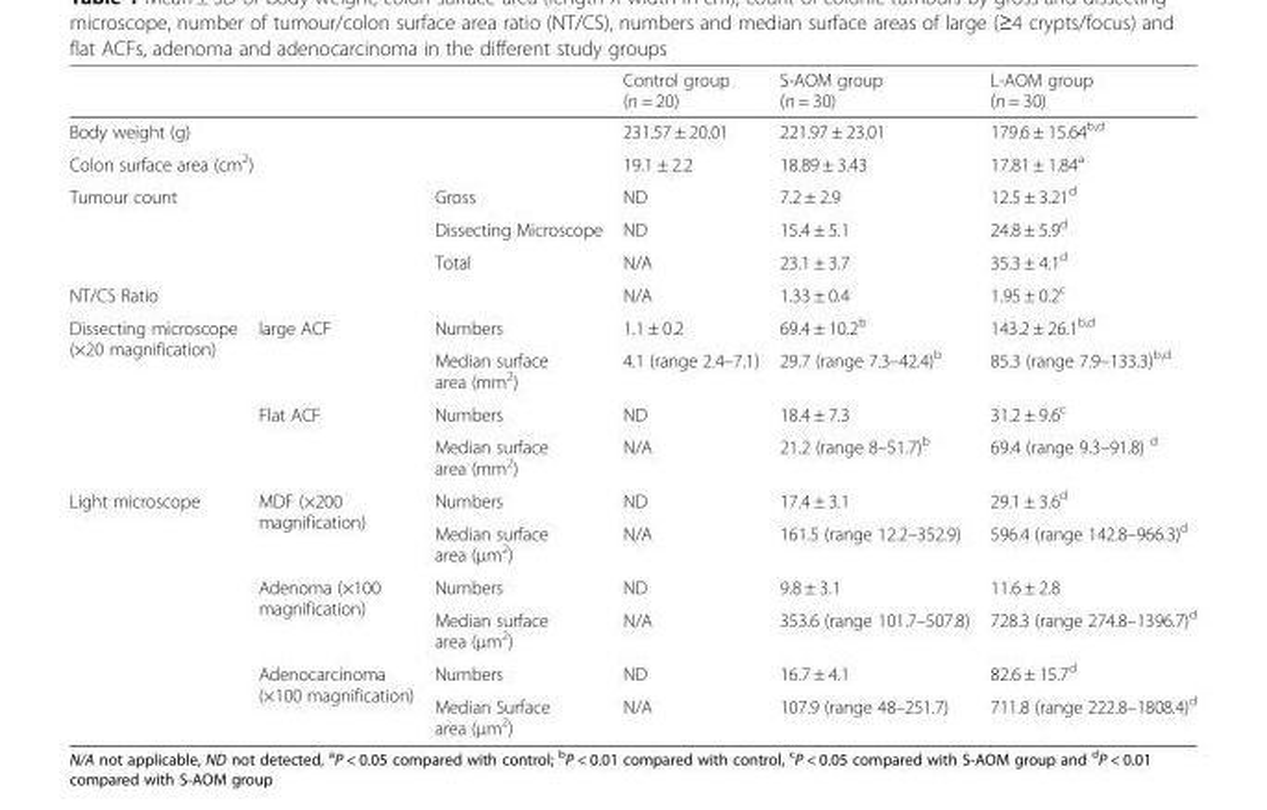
<table><thead><tr><td></td><td></td><td></td><td>Control group (n = 20)</td><td>S-AOM group (n = 30)</td><td>L-AOM group (n = 30)</td></tr></thead><tbody><tr><td colspan="3">Body weight (g)</td><td>231.57 ± 20.01</td><td>221.97 ± 23.01</td><td>179.6 ± 15.64<sup>b,d</sup></td></tr><tr><td colspan="3">Colon surface area (cm<sup>2</sup>)</td><td>19.1 ± 2.2</td><td>18.89 ± 3.43</td><td>17.81 ± 1.84<sup>a</sup></td></tr><tr><td rowspan="3" colspan="2">Tumour count</td><td>Gross</td><td>ND</td><td>7.2 ± 2.9</td><td>12.5 ± 3.21<sup>d</sup></td></tr><tr><td>Dissecting Microscope</td><td>ND</td><td>15.4 ± 5.1</td><td>24.8 ± 5.9<sup>d</sup></td></tr><tr><td>Total</td><td>N/A</td><td>23.1 ± 3.7</td><td>35.3 ± 4.1<sup>d</sup></td></tr><tr><td colspan="3">NT/CS Ratio</td><td>N/A</td><td>1.33 ± 0.4</td><td>1.95 ± 0.2<sup>c</sup></td></tr><tr><td rowspan="4">Dissecting microscope (×20 magnification)</td><td rowspan="2">large ACF</td><td>Numbers</td><td>1.1 ± 0.2</td><td>69.4 ± 10.2<sup>b</sup></td><td>143.2 ± 26.1<sup>b,d</sup></td></tr><tr><td>Median surface area (mm<sup>2</sup>)</td><td>4.1 (range 2.4–7.1)</td><td>29.7 (range 7.3–42.4)<sup>b</sup></td><td>85.3 (range 7.9–133.3)<sup>b,d</sup></td></tr><tr><td rowspan="2">Flat ACF</td><td>Numbers</td><td>ND</td><td>18.4 ± 7.3</td><td>31.2 ± 9.6<sup>c</sup></td></tr><tr><td>Median surface area (mm<sup>2</sup>)</td><td>N/A</td><td>21.2 (range 8–51.7)<sup>b</sup></td><td>69.4 (range 9.3–91.8) <sup>d</sup></td></tr><tr><td rowspan="6">Light microscope</td><td rowspan="2">MDF (×200 magnification)</td><td>Numbers</td><td>ND</td><td>17.4 ± 3.1</td><td>29.1 ± 3.6<sup>d</sup></td></tr><tr><td>Median surface area (μm<sup>2</sup>)</td><td>N/A</td><td>161.5 (range 12.2–352.9)</td><td>596.4 (range 142.8–966.3)<sup>d</sup></td></tr><tr><td rowspan="2">Adenoma (×100 magnification)</td><td>Numbers</td><td>ND</td><td>9.8 ± 3.1</td><td>11.6 ± 2.8</td></tr><tr><td>Median surface area (μm<sup>2</sup>)</td><td>N/A</td><td>353.6 (range 101.7–507.8)</td><td>728.3 (range 274.8–1396.7)<sup>d</sup></td></tr><tr><td rowspan="2">Adenocarcinoma (×100 magnification)</td><td>Numbers</td><td>ND</td><td>16.7 ± 4.1</td><td>82.6 ± 15.7<sup>d</sup></td></tr><tr><td>Median Surface area (μm<sup>2</sup>)</td><td>N/A</td><td>107.9 (range 48–251.7)</td><td>711.8 (range 222.8–1808.4)<sup>d</sup></td></tr></tbody></table>